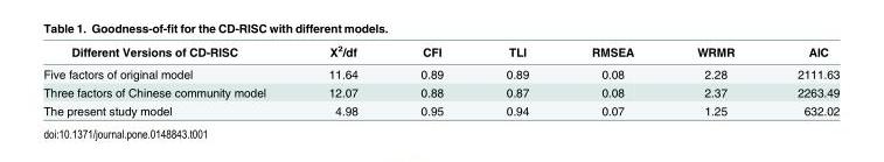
<table><thead><tr><td>Different Versions of CD-RISC</td><td>X<sup>2</sup>/df</td><td>CFI</td><td>TLI</td><td>RMSEA</td><td>WRMR</td><td>AIC</td></tr></thead><tbody><tr><td>Five factors of original model</td><td>11.64</td><td>0.89</td><td>0.89</td><td>0.08</td><td>2.28</td><td>2111.63</td></tr><tr><td>Three factors of Chinese community model</td><td>12.07</td><td>0.88</td><td>0.87</td><td>0.08</td><td>2.37</td><td>2263.49</td></tr><tr><td>The present study model</td><td>4.98</td><td>0.95</td><td>0.94</td><td>0.07</td><td>1.25</td><td>632.02</td></tr></tbody></table>